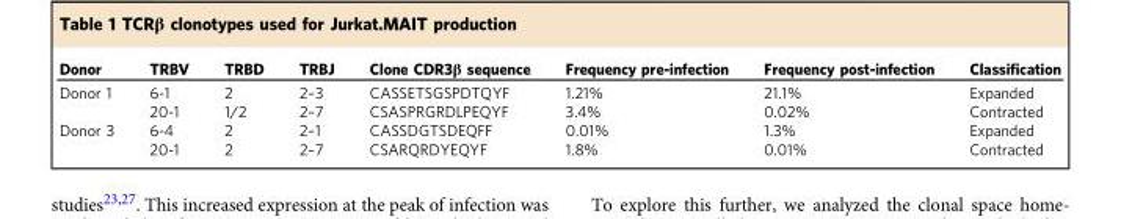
<table><thead><tr><td>Donor</td><td>TRBV</td><td>TRBD</td><td>TRBJ</td><td>Clone CDR3β sequence</td><td>Frequency pre-infection</td><td>Frequency post-infection</td><td>Classification</td></tr></thead><tbody><tr><td rowspan="2">Donor 1</td><td>6-1</td><td>2</td><td>2–3</td><td>CASSETSGSPDTQYF</td><td>1.21%</td><td>21.1%</td><td>Expanded</td></tr><tr><td>20-1</td><td>1/2</td><td>2–7</td><td>CSASPRGRDLPEQYF</td><td>3.4%</td><td>0.02%</td><td>Contracted</td></tr><tr><td rowspan="2">Donor 3</td><td>6-4</td><td>2</td><td>2–1</td><td>CASSDGTSDEQFF</td><td>0.01%</td><td>1.3%</td><td>Expanded</td></tr><tr><td>20-1</td><td>2</td><td>2–7</td><td>CSARQRDYEQYF</td><td>1.8%</td><td>0.01%</td><td>Contracted</td></tr></tbody></table>